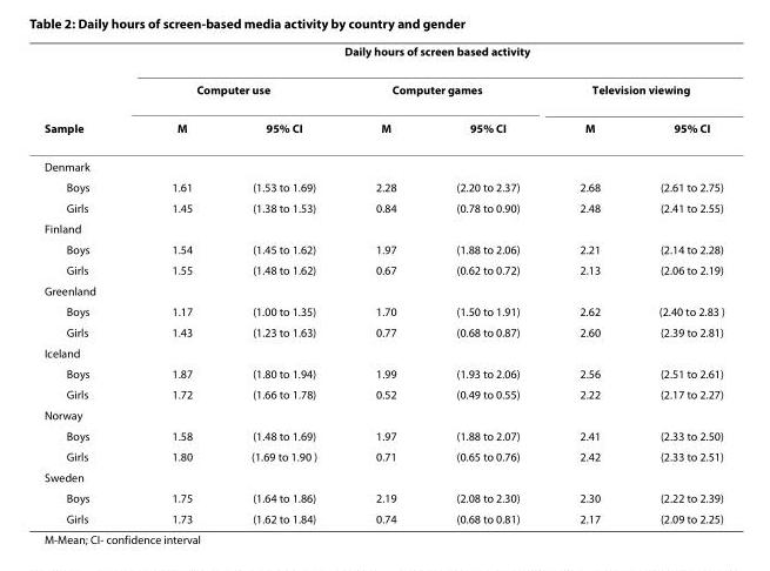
<table><thead><tr><td rowspan="3">Sample</td><td colspan="6">Daily hours of screen based activity</td></tr><tr><td colspan="2">Computer use</td><td colspan="2">Computer games</td><td colspan="2">Television viewing</td></tr><tr><td>M</td><td>95% CI</td><td>M</td><td>95% CI</td><td>M</td><td>95% CI</td></tr></thead><tbody><tr><td colspan="7">Denmark</td></tr><tr><td>Boys</td><td>1.61</td><td>(1.53 to 1.69)</td><td>2.28</td><td>(2.20 to 2.37)</td><td>2.68</td><td>(2.61 to 2.75)</td></tr><tr><td>Girls</td><td>1.45</td><td>(1.38 to 1.53)</td><td>0.84</td><td>(0.78 to 0.90)</td><td>2.48</td><td>(2.41 to 2.55)</td></tr><tr><td colspan="7">Finland</td></tr><tr><td>Boys</td><td>1.54</td><td>(1.45 to 1.62)</td><td>1.97</td><td>(1.88 to 2.06)</td><td>2.21</td><td>(2.14 to 2.28)</td></tr><tr><td>Girls</td><td>1.55</td><td>(1.48 to 1.62)</td><td>0.67</td><td>(0.62 to 0.72)</td><td>2.13</td><td>(2.06 to 2.19)</td></tr><tr><td colspan="7">Greenland</td></tr><tr><td>Boys</td><td>1.17</td><td>(1.00 to 1.35)</td><td>1.70</td><td>(1.50 to 1.91)</td><td>2.62</td><td>(2.40 to 2.83 )</td></tr><tr><td>Girls</td><td>1.43</td><td>(1.23 to 1.63)</td><td>0.77</td><td>(0.68 to 0.87)</td><td>2.60</td><td>(2.39 to 2.81)</td></tr><tr><td colspan="7">Iceland</td></tr><tr><td>Boys</td><td>1.87</td><td>(1.80 to 1.94)</td><td>1.99</td><td>(1.93 to 2.06)</td><td>2.56</td><td>(2.51 to 2.61)</td></tr><tr><td>Girls</td><td>1.72</td><td>(1.66 to 1.78)</td><td>0.52</td><td>(0.49 to 0.55)</td><td>2.22</td><td>(2.17 to 2.27)</td></tr><tr><td colspan="7">Norway</td></tr><tr><td>Boys</td><td>1.58</td><td>(1.48 to 1.69)</td><td>1.97</td><td>(1.88 to 2.07)</td><td>2.41</td><td>(2.33 to 2.50)</td></tr><tr><td>Girls</td><td>1.80</td><td>(1.69 to 1.90 )</td><td>0.71</td><td>(0.65 to 0.76)</td><td>2.42</td><td>(2.33 to 2.51)</td></tr><tr><td colspan="7">Sweden</td></tr><tr><td>Boys</td><td>1.75</td><td>(1.64 to 1.86)</td><td>2.19</td><td>(2.08 to 2.30)</td><td>2.30</td><td>(2.22 to 2.39)</td></tr><tr><td>Girls</td><td>1.73</td><td>(1.62 to 1.84)</td><td>0.74</td><td>(0.68 to 0.81)</td><td>2.17</td><td>(2.09 to 2.25)</td></tr></tbody></table>